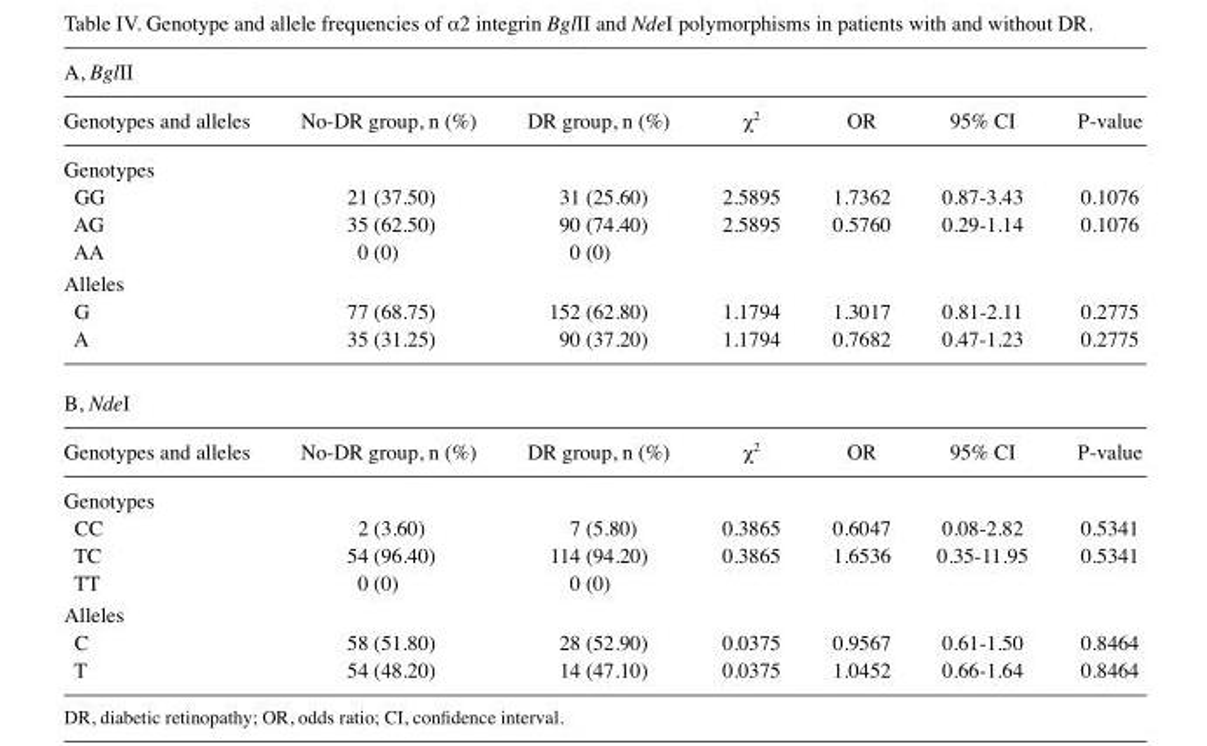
<table><thead><tr><td colspan="7">A, BglII</td></tr><tr><td>Genotypes and alleles</td><td>No-DR group, n (%)</td><td>DR group, n (%)</td><td>χ<sup>2</sup></td><td>OR</td><td>95% CI</td><td>P-value</td></tr></thead><tbody><tr><td colspan="7">Genotypes</td></tr><tr><td>GG</td><td>21 (37.50)</td><td>31 (25.60)</td><td>2.5895</td><td>1.7362</td><td>0.87-3.43</td><td>0.1076</td></tr><tr><td>AG</td><td>35 (62.50)</td><td>90 (74.40)</td><td>2.5895</td><td>0.5760</td><td>0.29-1.14</td><td>0.1076</td></tr><tr><td>AA</td><td>0 (0)</td><td>0 (0)</td><td></td><td></td><td></td><td></td></tr><tr><td colspan="7">Alleles</td></tr><tr><td>G</td><td>77 (68.75)</td><td>152 (62.80)</td><td>1.1794</td><td>1.3017</td><td>0.81-2.11</td><td>0.2775</td></tr><tr><td>A</td><td>35 (31.25)</td><td>90 (37.20)</td><td>1.1794</td><td>0.7682</td><td>0.47-1.23</td><td>0.2775</td></tr><tr><td colspan="7">B, NdeI</td></tr><tr><td>Genotypes and alleles</td><td>No-DR group, n (%)</td><td>DR group, n (%)</td><td>χ<sup>2</sup></td><td>OR</td><td>95% CI</td><td>P-value</td></tr><tr><td colspan="7">Genotypes</td></tr><tr><td>CC</td><td>2 (3.60)</td><td>7 (5.80)</td><td>0.3865</td><td>0.6047</td><td>0.08-2.82</td><td>0.5341</td></tr><tr><td>TC</td><td>54 (96.40)</td><td>114 (94.20)</td><td>0.3865</td><td>1.6536</td><td>0.35-11.95</td><td>0.5341</td></tr><tr><td>TT</td><td>0 (0)</td><td>0 (0)</td><td></td><td></td><td></td><td></td></tr><tr><td colspan="7">Alleles</td></tr><tr><td>C</td><td>58 (51.80)</td><td>28 (52.90)</td><td>0.0375</td><td>0.9567</td><td>0.61-1.50</td><td>0.8464</td></tr><tr><td>T</td><td>54 (48.20)</td><td>14 (47.10)</td><td>0.0375</td><td>1.0452</td><td>0.66-1.64</td><td>0.8464</td></tr></tbody></table>